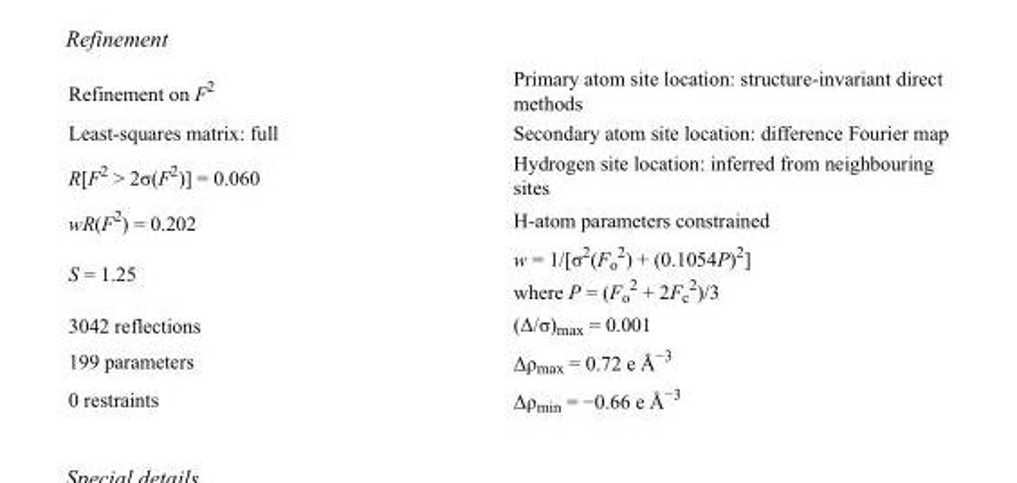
<table><tbody><tr><td>Refinement on F<sup>2</sup></td><td>Primary atom site location: structure-invariant direct methods</td></tr><tr><td>Least-squares matrix: full</td><td>Secondary atom site location: difference Fourier map</td></tr><tr><td>R[F<sup>2</sup> &gt; 2σ(F<sup>2</sup>)] = 0.060</td><td>Hydrogen site location: inferred from neighbouring sites</td></tr><tr><td>wR(F<sup>2</sup>) = 0.202</td><td>H-atom parameters constrained</td></tr><tr><td>S = 1.25</td><td>w = 1/[σ<sup>2</sup>(F<sub>o</sub> <sup>2</sup>) + (0.1054P)<sup>2</sup>] where P = (F<sub>o</sub> <sup>2</sup> + 2F<sub>c</sub> <sup>2</sup>)/3</td></tr><tr><td>3042 reflections</td><td>(Δ/σ)<sub>max</sub> = 0.001</td></tr><tr><td>199 parameters</td><td>Δρ<sub>max</sub> = 0.72 e Å<sup>−3</sup></td></tr><tr><td>0 restraints</td><td>Δρ<sub>min</sub> = −0.66 e Å<sup>−3</sup></td></tr></tbody></table>